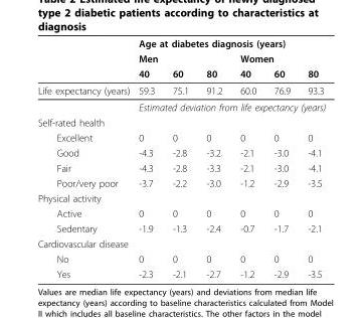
<table><thead><tr><td rowspan="3"></td><td colspan="6">Age at diabetes diagnosis (years)</td></tr><tr><td colspan="3">Men</td><td colspan="3">Women</td></tr><tr><td>40</td><td>60</td><td>80</td><td>40</td><td>60</td><td>80</td></tr></thead><tbody><tr><td rowspan="2">Life expectancy (years)</td><td>59.3</td><td>75.1</td><td>91.2</td><td>60.0</td><td>76.9</td><td>93.3</td></tr><tr><td colspan="6">Estimated deviation from life expectancy (years)</td></tr><tr><td colspan="7">Self-rated health</td></tr><tr><td>Excellent</td><td>0</td><td>0</td><td>0</td><td>0</td><td>0</td><td>0</td></tr><tr><td>Good</td><td>-4.3</td><td>-2.8</td><td>-3.2</td><td>-2.1</td><td>-3.0</td><td>-4.1</td></tr><tr><td>Fair</td><td>-4.3</td><td>-2.8</td><td>-3.3</td><td>-2.1</td><td>-3.0</td><td>-4.1</td></tr><tr><td>Poor/very poor</td><td>-3.7</td><td>-2.2</td><td>-3.0</td><td>-1.2</td><td>-2.9</td><td>-3.5</td></tr><tr><td colspan="7">Physical activity</td></tr><tr><td>Active</td><td>0</td><td>0</td><td>0</td><td>0</td><td>0</td><td>0</td></tr><tr><td>Sedentary</td><td>-1.9</td><td>-1.3</td><td>-2.4</td><td>-0.7</td><td>-1.7</td><td>-2.1</td></tr><tr><td colspan="7">Cardiovascular disease</td></tr><tr><td>No</td><td>0</td><td>0</td><td>0</td><td>0</td><td>0</td><td>0</td></tr><tr><td>Yes</td><td>-2.3</td><td>-2.1</td><td>-2.7</td><td>-1.2</td><td>-2.9</td><td>-3.5</td></tr></tbody></table>